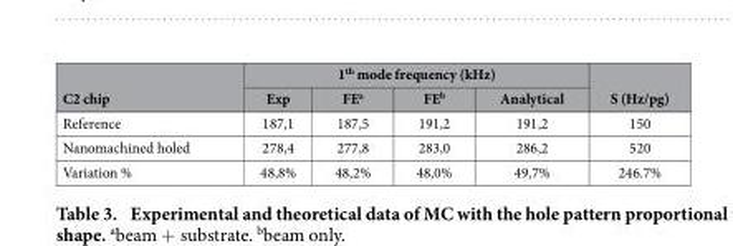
<table><thead><tr><td rowspan="2">C2 chip</td><td colspan="4">1<sup>th</sup> mode frequency (kHz)</td><td rowspan="2">S (Hz/pg)</td></tr><tr><td>Exp</td><td>FE<sup>a</sup></td><td>FE<sup>b</sup></td><td>Analytical</td></tr></thead><tbody><tr><td>Reference</td><td>187,1</td><td>187,5</td><td>191,2</td><td>191,2</td><td>150</td></tr><tr><td>Nanomachined holed</td><td>278,4</td><td>277,8</td><td>283,0</td><td>286,2</td><td>520</td></tr><tr><td>Variation %</td><td>48,8%</td><td>48,2%</td><td>48,0%</td><td>49,7%</td><td>246.7%</td></tr></tbody></table>